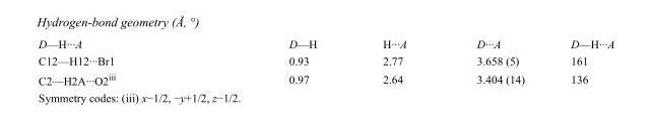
<table><tbody><tr><td>D—H···A</td><td>D—H</td><td>H···A</td><td>D···A</td><td>D—H···A</td></tr><tr><td>C12—H12···Br1</td><td>0.93</td><td>2.77</td><td>3.658 (5)</td><td>161</td></tr><tr><td>C2—H2A···O2<sup>iii</sup></td><td>0.97</td><td>2.64</td><td>3.404 (14)</td><td>136</td></tr></tbody></table>